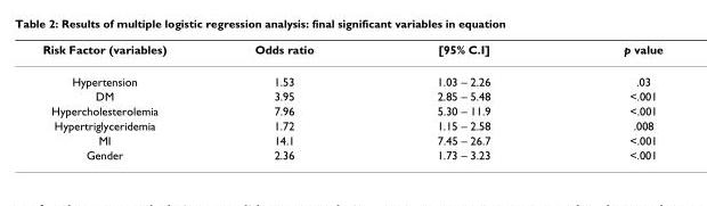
<table><thead><tr><td>Risk Factor (variables)</td><td>Odds ratio</td><td>[95% C.I]</td><td>p value</td></tr></thead><tbody><tr><td>Hypertension</td><td>1.53</td><td>1.03 – 2.26</td><td>.03</td></tr><tr><td>DM</td><td>3.95</td><td>2.85 – 5.48</td><td>&lt;.001</td></tr><tr><td>Hypercholesterolemia</td><td>7.96</td><td>5.30 – 11.9</td><td>&lt;.001</td></tr><tr><td>Hypertriglyceridemia</td><td>1.72</td><td>1.15 – 2.58</td><td>.008</td></tr><tr><td>MI</td><td>14.1</td><td>7.45 – 26.7</td><td>&lt;.001</td></tr><tr><td>Gender</td><td>2.36</td><td>1.73 – 3.23</td><td>&lt;.001</td></tr></tbody></table>